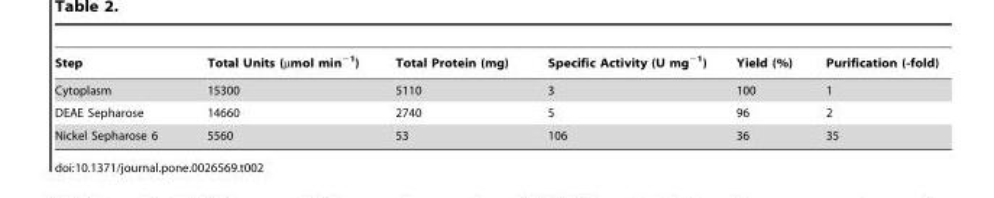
<table><thead><tr><td>Step</td><td>Total Units (µmol min<sup>−1</sup>)</td><td>Total Protein (mg)</td><td>Specific Activity (U mg<sup>−1</sup>)</td><td>Yield (%)</td><td>Purification (-fold)</td></tr></thead><tbody><tr><td>Cytoplasm</td><td>15300</td><td>5110</td><td>3</td><td>100</td><td>1</td></tr><tr><td>DEAE Sepharose</td><td>14660</td><td>2740</td><td>5</td><td>96</td><td>2</td></tr><tr><td>Nickel Sepharose 6</td><td>5560</td><td>53</td><td>106</td><td>36</td><td>35</td></tr></tbody></table>